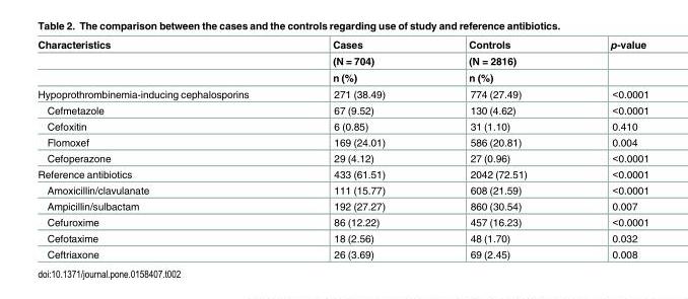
<table><thead><tr><td rowspan="3">Characteristics</td><td rowspan="3">Cases (N = 704) n (%)</td><td rowspan="3">Controls (N = 2816) n (%)</td><td rowspan="3">p-value</td></tr><tr></tr><tr></tr></thead><tbody><tr><td>Hypoprothrombinemia-inducing cephalosporins</td><td>271 (38.49)</td><td>774 (27.49)</td><td>&lt;0.0001</td></tr><tr><td>Cefmetazole</td><td>67 (9.52)</td><td>130 (4.62)</td><td>&lt;0.0001</td></tr><tr><td>Cefoxitin</td><td>6 (0.85)</td><td>31 (1.10)</td><td>0.410</td></tr><tr><td>Flomoxef</td><td>169 (24.01)</td><td>586 (20.81)</td><td>0.004</td></tr><tr><td>Cefoperazone</td><td>29 (4.12)</td><td>27 (0.96)</td><td>&lt;0.0001</td></tr><tr><td>Reference antibiotics</td><td>433 (61.51)</td><td>2042 (72.51)</td><td>&lt;0.0001</td></tr><tr><td>Amoxicillin/clavulanate</td><td>111 (15.77)</td><td>608 (21.59)</td><td>&lt;0.0001</td></tr><tr><td>Ampicillin/sulbactam</td><td>192 (27.27)</td><td>860 (30.54)</td><td>0.007</td></tr><tr><td>Cefuroxime</td><td>86 (12.22)</td><td>457 (16.23)</td><td>&lt;0.0001</td></tr><tr><td>Cefotaxime</td><td>18 (2.56)</td><td>48 (1.70)</td><td>0.032</td></tr><tr><td>Ceftriaxone</td><td>26 (3.69)</td><td>69 (2.45)</td><td>0.008</td></tr></tbody></table>